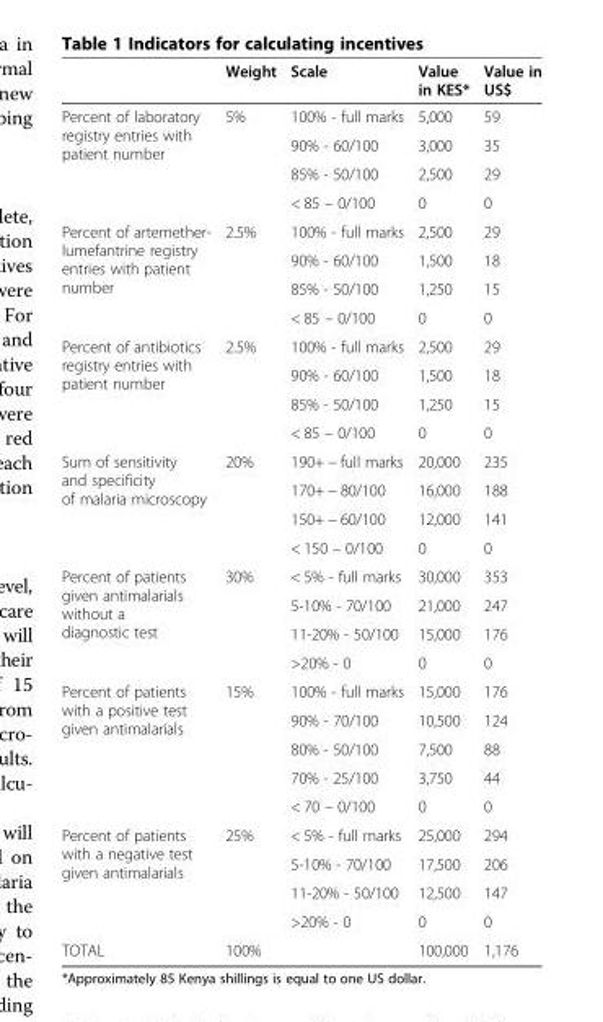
<table><thead><tr><td></td><td>Weight</td><td>Scale</td><td>Value in KES*</td><td>Value in US$</td></tr></thead><tbody><tr><td rowspan="4">Percent of laboratory registry entries with patient number</td><td rowspan="4">5%</td><td>100% - full marks</td><td>5,000</td><td>59</td></tr><tr><td>90% - 60/100</td><td>3,000</td><td>35</td></tr><tr><td>85% - 50/100</td><td>2,500</td><td>29</td></tr><tr><td>&lt; 85 – 0/100</td><td>0</td><td>0</td></tr><tr><td rowspan="4">Percent of artemether- lumefantrine registry entries with patient number</td><td rowspan="4">2.5%</td><td>100% - full marks</td><td>2,500</td><td>29</td></tr><tr><td>90% - 60/100</td><td>1,500</td><td>18</td></tr><tr><td>85% - 50/100</td><td>1,250</td><td>15</td></tr><tr><td>&lt; 85 – 0/100</td><td>0</td><td>0</td></tr><tr><td rowspan="4">Percent of antibiotics registry entries with patient number</td><td rowspan="4">2.5%</td><td>100% - full marks</td><td>2,500</td><td>29</td></tr><tr><td>90% - 60/100</td><td>1,500</td><td>18</td></tr><tr><td>85% - 50/100</td><td>1,250</td><td>15</td></tr><tr><td>&lt; 85 – 0/100</td><td>0</td><td>0</td></tr><tr><td rowspan="4">Sum of sensitivity and specificity of malaria microscopy</td><td rowspan="4">20%</td><td>190+ − full marks</td><td>20,000</td><td>235</td></tr><tr><td>170+ − 80/100</td><td>16,000</td><td>188</td></tr><tr><td>150+ − 60/100</td><td>12,000</td><td>141</td></tr><tr><td>&lt; 150 – 0/100</td><td>0</td><td>0</td></tr><tr><td rowspan="4">Percent of patients given antimalarials without a diagnostic test</td><td rowspan="4">30%</td><td>&lt; 5% - full marks</td><td>30,000</td><td>353</td></tr><tr><td>5-10% - 70/100</td><td>21,000</td><td>247</td></tr><tr><td>11-20% - 50/100</td><td>15,000</td><td>176</td></tr><tr><td>&gt;20% - 0</td><td>0</td><td>0</td></tr><tr><td rowspan="5">Percent of patients with a positive test given antimalarials</td><td rowspan="5">15%</td><td>100% - full marks</td><td>15,000</td><td>176</td></tr><tr><td>90% - 70/100</td><td>10,500</td><td>124</td></tr><tr><td>80% - 50/100</td><td>7,500</td><td>88</td></tr><tr><td>70% - 25/100</td><td>3,750</td><td>44</td></tr><tr><td>&lt; 70 – 0/100</td><td>0</td><td>0</td></tr><tr><td rowspan="4">Percent of patients with a negative test given antimalarials</td><td rowspan="4">25%</td><td>&lt; 5% - full marks</td><td>25,000</td><td>294</td></tr><tr><td>5-10% - 70/100</td><td>17,500</td><td>206</td></tr><tr><td>11-20% - 50/100</td><td>12,500</td><td>147</td></tr><tr><td>&gt;20% - 0</td><td>0</td><td>0</td></tr><tr><td>TOTAL</td><td>100%</td><td></td><td>100,000</td><td>1,176</td></tr></tbody></table>